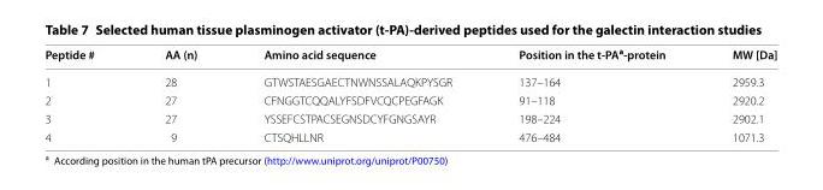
<table><thead><tr><td>Peptide #</td><td>AA (n)</td><td>Amino acid sequence</td><td>Position in the t‑PA<sup>a</sup>‑protein</td><td>MW [Da]</td></tr></thead><tbody><tr><td>1</td><td>28</td><td>GTWSTAESGAECTNWNSSALAQKPYSGR</td><td>137–164</td><td>2959.3</td></tr><tr><td>2</td><td>27</td><td>CFNGGTCQQALYFSDFVCQCPEGFAGK</td><td>91–118</td><td>2920.2</td></tr><tr><td>3</td><td>27</td><td>YSSEFCSTPACSEGNSDCYFGNGSAYR</td><td>198–224</td><td>2902.1</td></tr><tr><td>4</td><td>9</td><td>CTSQHLLNR</td><td>476–484</td><td>1071.3</td></tr></tbody></table>